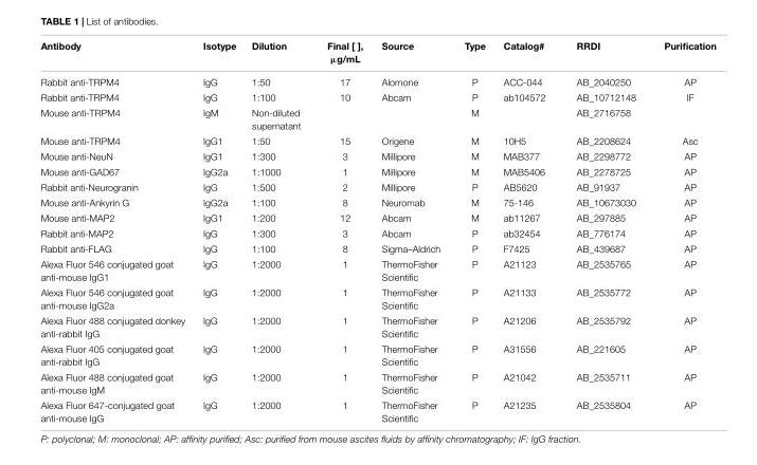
<table><thead><tr><td>Antibody</td><td>Isotype</td><td>Dilution</td><td>Final [ ], µg/mL</td><td>Source</td><td>Type</td><td>Catalog#</td><td>RRDI</td><td>Purification</td></tr></thead><tbody><tr><td>Rabbit anti-TRPM4</td><td>IgG</td><td>1:50</td><td>17</td><td>Alomone</td><td>P</td><td>ACC-044</td><td>AB_2040250</td><td>AP</td></tr><tr><td>Rabbit anti-TRPM4</td><td>IgG</td><td>1:100</td><td>10</td><td>Abcam</td><td>P</td><td>ab104572</td><td>AB_10712148</td><td>IF</td></tr><tr><td>Mouse anti-TRPM4</td><td>IgM</td><td>Non-diluted supernatant</td><td></td><td></td><td>M</td><td></td><td>AB_2716758</td><td></td></tr><tr><td>Mouse anti-TRPM4</td><td>IgG1</td><td>1:50</td><td>15</td><td>Origene</td><td>M</td><td>10H5</td><td>AB_2208624</td><td>Asc</td></tr><tr><td>Mouse anti-NeuN</td><td>IgG1</td><td>1:300</td><td>3</td><td>Millipore</td><td>M</td><td>MAB377</td><td>AB_2298772</td><td>AP</td></tr><tr><td>Mouse anti-GAD67</td><td>IgG2a</td><td>1:1000</td><td>1</td><td>Millipore</td><td>M</td><td>MAB5406</td><td>AB_2278725</td><td>AP</td></tr><tr><td>Rabbit anti-Neurogranin</td><td>IgG</td><td>1:500</td><td>2</td><td>Millipore</td><td>P</td><td>AB5620</td><td>AB_91937</td><td>AP</td></tr><tr><td>Mouse anti-Ankyrin G</td><td>IgG2a</td><td>1:100</td><td>8</td><td>Neuromab</td><td>M</td><td>75-146</td><td>AB_10673030</td><td>AP</td></tr><tr><td>Mouse anti-MAP2</td><td>IgG1</td><td>1:200</td><td>12</td><td>Abcam</td><td>M</td><td>ab11267</td><td>AB_297885</td><td>AP</td></tr><tr><td>Rabbit anti-MAP2</td><td>IgG</td><td>1:300</td><td>3</td><td>Abcam</td><td>P</td><td>ab32454</td><td>AB_776174</td><td>AP</td></tr><tr><td>Rabbit anti-FLAG</td><td>IgG</td><td>1:100</td><td>8</td><td>Sigma–Aldrich</td><td>P</td><td>F7425</td><td>AB_439687</td><td>AP</td></tr><tr><td>Alexa Fluor 546 conjugated goat anti-mouse IgG1</td><td>IgG</td><td>1:2000</td><td>1</td><td>ThermoFisher Scientific</td><td>P</td><td>A21123</td><td>AB_2535765</td><td>AP</td></tr><tr><td>Alexa Fluor 546 conjugated goat anti-mouse IgG2a</td><td>IgG</td><td>1:2000</td><td>1</td><td>ThermoFisher Scientific</td><td>P</td><td>A21133</td><td>AB_2535772</td><td>AP</td></tr><tr><td>Alexa Fluor 488 conjugated donkey anti-rabbit IgG</td><td>IgG</td><td>1:2000</td><td>1</td><td>ThermoFisher Scientific</td><td>P</td><td>A21206</td><td>AB_2535792</td><td>AP</td></tr><tr><td>Alexa Fluor 405 conjugated goat anti-rabbit IgG</td><td>IgG</td><td>1:2000</td><td>1</td><td>ThermoFisher Scientific</td><td>P</td><td>A31556</td><td>AB_221605</td><td>AP</td></tr><tr><td>Alexa Fluor 488 conjugated goat anti-mouse IgM</td><td>IgG</td><td>1:2000</td><td>1</td><td>ThermoFisher Scientific</td><td>P</td><td>A21042</td><td>AB_2535711</td><td>AP</td></tr><tr><td>Alexa Fluor 647-conjugated goat anti-mouse IgG</td><td>IgG</td><td>1:2000</td><td>1</td><td>ThermoFisher Scientific</td><td>P</td><td>A21235</td><td>AB_2535804</td><td>AP</td></tr></tbody></table>